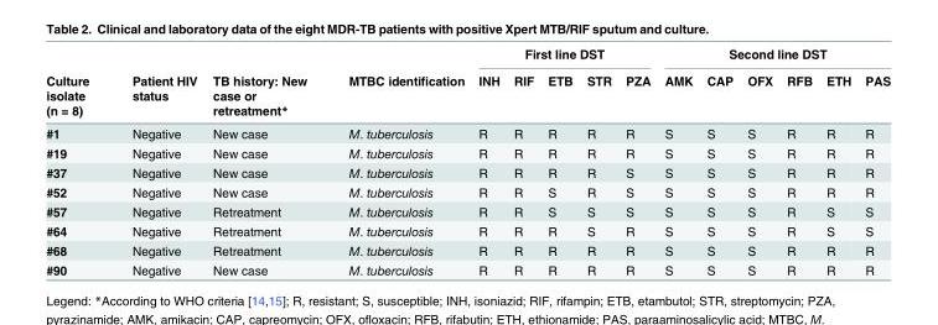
<table><thead><tr><td rowspan="2">Culture isolate (n = 8)</td><td rowspan="2">Patient HIV status</td><td rowspan="2">TB history: New case or retreatment*</td><td rowspan="2">MTBC identification</td><td colspan="5">First line DST</td><td colspan="6">Second line DST</td></tr><tr><td>INH</td><td>RIF</td><td>ETB</td><td>STR</td><td>PZA</td><td>AMK</td><td>CAP</td><td>OFX</td><td>RFB</td><td>ETH</td><td>PAS</td></tr></thead><tbody><tr><td>#1</td><td>Negative</td><td>New case</td><td>M. tuberculosis</td><td>R</td><td>R</td><td>R</td><td>R</td><td>R</td><td>S</td><td>S</td><td>S</td><td>R</td><td>R</td><td>R</td></tr><tr><td>#19</td><td>Negative</td><td>New case</td><td>M. tuberculosis</td><td>R</td><td>R</td><td>R</td><td>R</td><td>R</td><td>S</td><td>S</td><td>S</td><td>R</td><td>R</td><td>R</td></tr><tr><td>#37</td><td>Negative</td><td>New case</td><td>M. tuberculosis</td><td>R</td><td>R</td><td>R</td><td>R</td><td>S</td><td>S</td><td>S</td><td>S</td><td>R</td><td>R</td><td>R</td></tr><tr><td>#52</td><td>Negative</td><td>New case</td><td>M. tuberculosis</td><td>R</td><td>R</td><td>S</td><td>R</td><td>S</td><td>S</td><td>S</td><td>S</td><td>R</td><td>R</td><td>R</td></tr><tr><td>#57</td><td>Negative</td><td>Retreatment</td><td>M. tuberculosis</td><td>R</td><td>R</td><td>S</td><td>S</td><td>S</td><td>S</td><td>S</td><td>S</td><td>R</td><td>S</td><td>S</td></tr><tr><td>#64</td><td>Negative</td><td>Retreatment</td><td>M. tuberculosis</td><td>R</td><td>R</td><td>R</td><td>S</td><td>R</td><td>S</td><td>S</td><td>S</td><td>R</td><td>S</td><td>S</td></tr><tr><td>#68</td><td>Negative</td><td>Retreatment</td><td>M. tuberculosis</td><td>R</td><td>R</td><td>R</td><td>R</td><td>R</td><td>S</td><td>S</td><td>S</td><td>R</td><td>R</td><td>R</td></tr><tr><td>#90</td><td>Negative</td><td>New case</td><td>M. tuberculosis</td><td>R</td><td>R</td><td>R</td><td>R</td><td>R</td><td>S</td><td>S</td><td>S</td><td>R</td><td>R</td><td>R</td></tr></tbody></table>